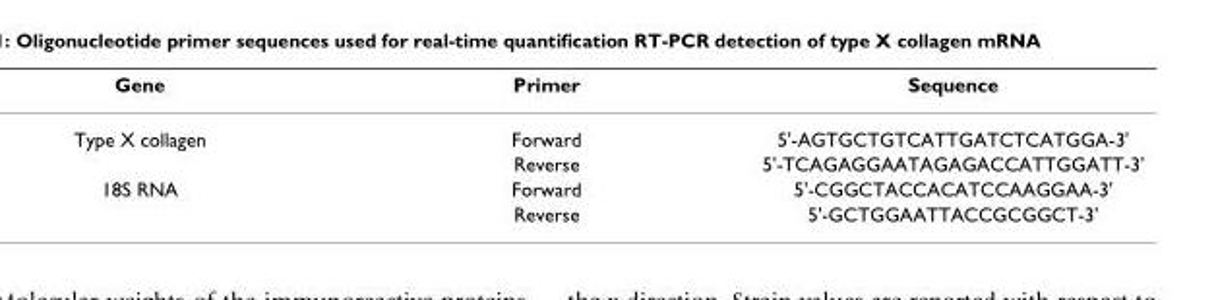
<table><thead><tr><td>Gene</td><td>Primer</td><td>Sequence</td></tr></thead><tbody><tr><td rowspan="2">Type X collagen</td><td>Forward</td><td>5&#x27;-AGTGCTGTCATTGATCTCATGGA-3&#x27;</td></tr><tr><td>Reverse</td><td>5&#x27;-TCAGAGGAATAGAGACCATTGGATT-3&#x27;</td></tr><tr><td rowspan="2">18S RNA</td><td>Forward</td><td>5&#x27;-CGGCTACCACATCCAAGGAA-3&#x27;</td></tr><tr><td>Reverse</td><td>5&#x27;-GCTGGAATTACCGCGGCT-3&#x27;</td></tr></tbody></table>